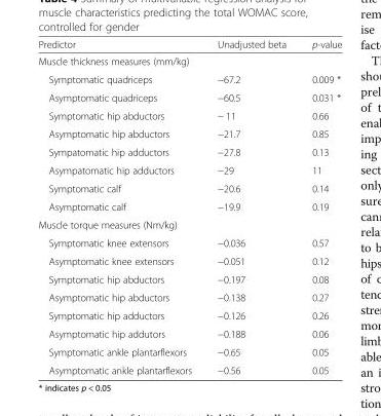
<table><thead><tr><td>Predictor</td><td>Unadjusted beta</td><td>p-value</td></tr></thead><tbody><tr><td colspan="3">Muscle thickness measures (mm/kg)</td></tr><tr><td>Symptomatic quadriceps</td><td>−67.2</td><td>0.009 *</td></tr><tr><td>Asymptomatic quadriceps</td><td>−60.5</td><td>0.031 *</td></tr><tr><td>Symptomatic hip abductors</td><td>− 11</td><td>0.66</td></tr><tr><td>Asymptomatic hip abductors</td><td>−21.7</td><td>0.85</td></tr><tr><td>Sympatomatic hip adductors</td><td>−27.8</td><td>0.13</td></tr><tr><td>Asympatomatic hip adductors</td><td>−29</td><td>11</td></tr><tr><td>Symptomatic calf</td><td>−20.6</td><td>0.14</td></tr><tr><td>Asymptomatic calf</td><td>−19.9</td><td>0.19</td></tr><tr><td colspan="3">Muscle torque measures (Nm/kg)</td></tr><tr><td>Symptomatic knee extensors</td><td>−0.036</td><td>0.57</td></tr><tr><td>Asymptomatic knee extensors</td><td>−0.051</td><td>0.12</td></tr><tr><td>Symptomatic hip abductors</td><td>−0.197</td><td>0.08</td></tr><tr><td>Asymptomatic hip abductors</td><td>−0.138</td><td>0.27</td></tr><tr><td>Symptomatic hip adductors</td><td>−0.126</td><td>0.26</td></tr><tr><td>Asymptomatic hip addutors</td><td>−0.188</td><td>0.06</td></tr><tr><td>Symptomatic ankle plantarflexors</td><td>−0.65</td><td>0.05</td></tr><tr><td>Asymptomatic ankle plantarflexors</td><td>−0.56</td><td>0.05</td></tr></tbody></table>